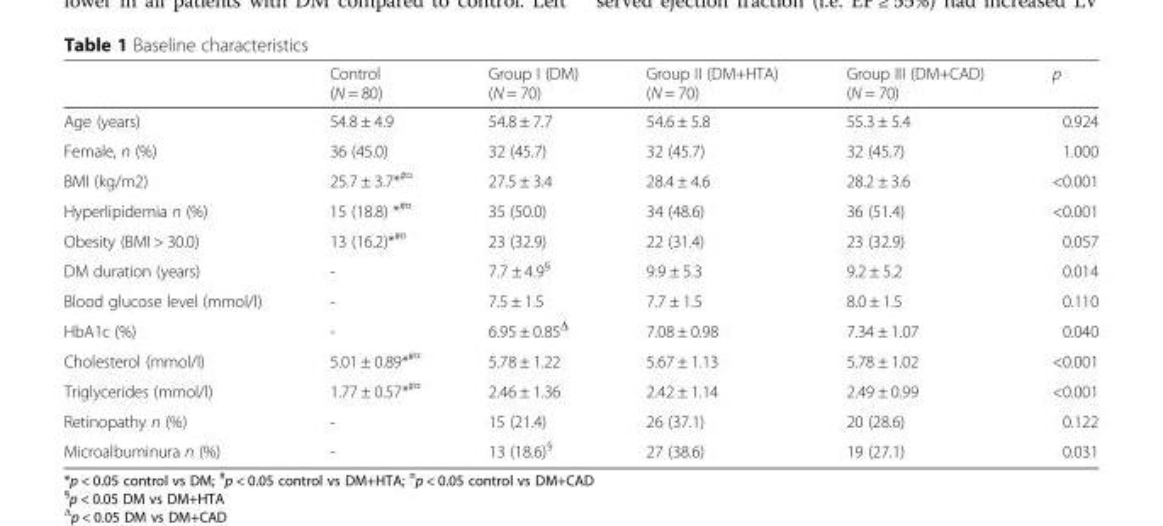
<table><thead><tr><td></td><td>Control (N = 80)</td><td>Group I (DM) (N = 70)</td><td>Group II (DM+HTA) (N = 70)</td><td>Group III (DM+CAD) (N = 70)</td><td>p</td></tr></thead><tbody><tr><td>Age (years)</td><td>54.8 ± 4.9</td><td>54.8 ± 7.7</td><td>54.6 ± 5.8</td><td>55.3 ± 5.4</td><td>0.924</td></tr><tr><td>Female, n (%)</td><td>36 (45.0)</td><td>32 (45.7)</td><td>32 (45.7)</td><td>32 (45.7)</td><td>1.000</td></tr><tr><td>BMI (kg/m2)</td><td>25.7 ± 3.7*<sup>#¤</sup></td><td>27.5 ± 3.4</td><td>28.4 ± 4.6</td><td>28.2 ± 3.6</td><td>&lt;0.001</td></tr><tr><td>Hyperlipidemia n (%)</td><td>15 (18.8) *<sup>#¤</sup></td><td>35 (50.0)</td><td>34 (48.6)</td><td>36 (51.4)</td><td>&lt;0.001</td></tr><tr><td>Obesity (BMI &gt; 30.0)</td><td>13 (16.2)*<sup>#¤</sup></td><td>23 (32.9)</td><td>22 (31.4)</td><td>23 (32.9)</td><td>0.057</td></tr><tr><td>DM duration (years)</td><td>-</td><td>7.7 ± 4.9<sup>§</sup></td><td>9.9 ± 5.3</td><td>9.2 ± 5.2</td><td>0.014</td></tr><tr><td>Blood glucose level (mmol/l)</td><td>-</td><td>7.5 ± 1.5</td><td>7.7 ± 1.5</td><td>8.0 ± 1.5</td><td>0.110</td></tr><tr><td>HbA1c (%)</td><td>-</td><td>6.95 ± 0.85<sup>Δ</sup></td><td>7.08 ± 0.98</td><td>7.34 ± 1.07</td><td>0.040</td></tr><tr><td>Cholesterol (mmol/l)</td><td>5.01 ± 0.89*<sup>#¤</sup></td><td>5.78 ± 1.22</td><td>5.67 ± 1.13</td><td>5.78 ± 1.02</td><td>&lt;0.001</td></tr><tr><td>Triglycerides (mmol/l)</td><td>1.77 ± 0.57*<sup>#¤</sup></td><td>2.46 ± 1.36</td><td>2.42 ± 1.14</td><td>2.49 ± 0.99</td><td>&lt;0.001</td></tr><tr><td>Retinopathy n (%)</td><td>-</td><td>15 (21.4)</td><td>26 (37.1)</td><td>20 (28.6)</td><td>0.122</td></tr><tr><td>Microalbuminura n (%)</td><td>-</td><td>13 (18.6)<sup>§</sup></td><td>27 (38.6)</td><td>19 (27.1)</td><td>0.031</td></tr></tbody></table>